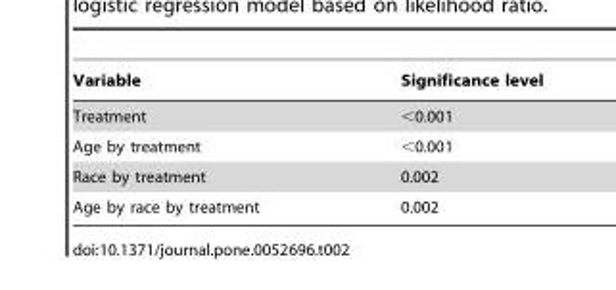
<table><thead><tr><td>Variable</td><td>Significance level</td></tr></thead><tbody><tr><td>Treatment</td><td>&lt;0.001</td></tr><tr><td>Age by treatment</td><td>&lt;0.001</td></tr><tr><td>Race by treatment</td><td>0.002</td></tr><tr><td>Age by race by treatment</td><td>0.002</td></tr></tbody></table>